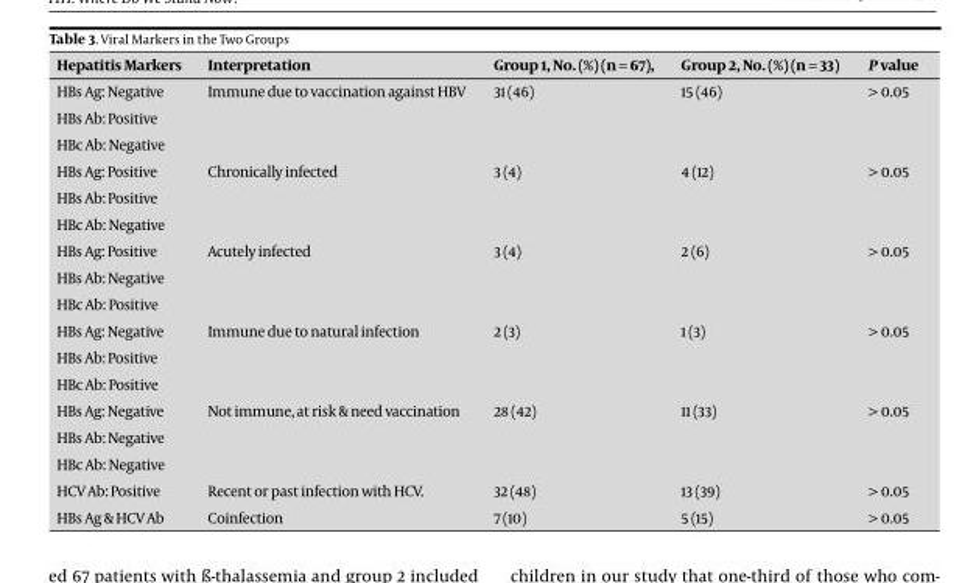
<table><thead><tr><td>Hepatitis Markers</td><td>Interpretation</td><td>Group 1, No. (%) (n = 67),</td><td>Group 2, No. (%) (n = 33)</td><td>P value</td></tr></thead><tbody><tr><td>HBs Ag: Negative</td><td>Immune due to vaccination against HBV</td><td>31 (46)</td><td>15 (46)</td><td>&gt; 0.05</td></tr><tr><td colspan="5">HBs Ab: Positive</td></tr><tr><td colspan="5">HBc Ab: Negative</td></tr><tr><td>HBs Ag: Positive</td><td>Chronically infected</td><td>3 (4)</td><td>4 (12)</td><td>&gt; 0.05</td></tr><tr><td colspan="5">HBs Ab: Positive</td></tr><tr><td colspan="5">HBc Ab: Negative</td></tr><tr><td>HBs Ag: Positive</td><td>Acutely infected</td><td>3 (4)</td><td>2 (6)</td><td>&gt; 0.05</td></tr><tr><td colspan="5">HBs Ab: Negative</td></tr><tr><td colspan="5">HBc Ab: Positive</td></tr><tr><td>HBs Ag: Negative</td><td>Immune due to natural infection</td><td>2 (3)</td><td>1 (3)</td><td>&gt; 0.05</td></tr><tr><td colspan="5">HBs Ab: Positive</td></tr><tr><td colspan="5">HBc Ab: Positive</td></tr><tr><td>HBs Ag: Negative</td><td>Not immune, at risk &amp; need vaccination</td><td>28 (42)</td><td>11 (33)</td><td>&gt; 0.05</td></tr><tr><td colspan="5">HBs Ab: Negative</td></tr><tr><td colspan="5">HBc Ab: Negative</td></tr><tr><td>HCV Ab: Positive</td><td>Recent or past infection with HCV.</td><td>32 (48)</td><td>13 (39)</td><td>&gt; 0.05</td></tr><tr><td>HBs Ag &amp; HCV Ab</td><td>Coinfection</td><td>7 (10)</td><td>5 (15)</td><td>&gt; 0.05</td></tr></tbody></table>